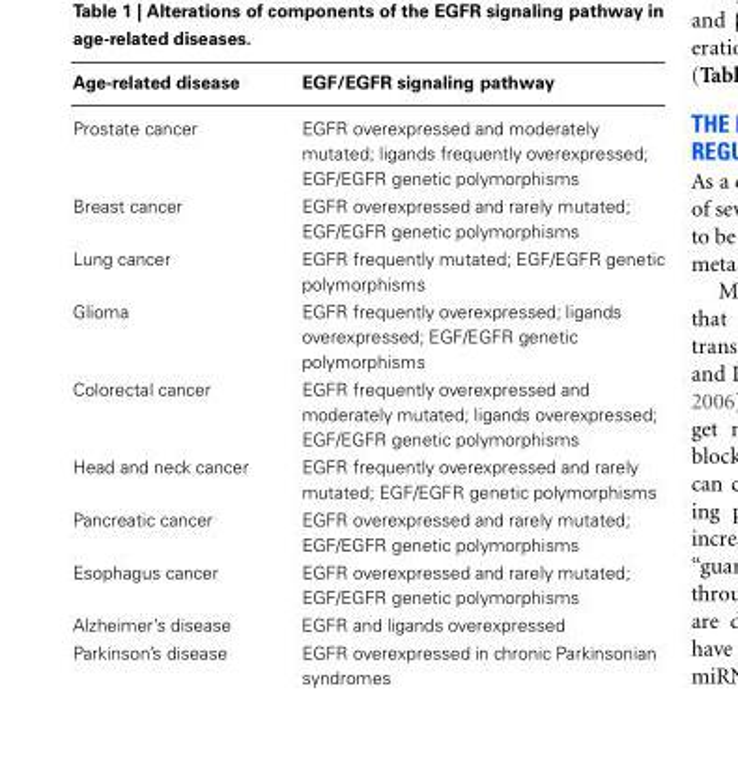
<table><thead><tr><td>Age-related disease</td><td>EGF/EGFR signaling pathway</td></tr></thead><tbody><tr><td>Prostate cancer</td><td>EGFR overexpressed and moderately mutated; ligands frequently overexpressed; EGF/EGFR genetic polymorphisms</td></tr><tr><td>Breast cancer</td><td>EGFR overexpressed and rarely mutated; EGF/EGFR genetic polymorphisms</td></tr><tr><td>Lung cancer</td><td>EGFR frequently mutated; EGF/EGFR genetic polymorphisms</td></tr><tr><td>Glioma</td><td>EGFR frequently overexpressed; ligands overexpressed; EGF/EGFR genetic polymorphisms</td></tr><tr><td>Colorectal cancer</td><td>EGFR frequently overexpressed and moderately mutated; ligands overexpressed; EGF/EGFR genetic polymorphisms</td></tr><tr><td>Head and neck cancer</td><td>EGFR frequently overexpressed and rarely mutated; EGF/EGFR genetic polymorphisms</td></tr><tr><td>Pancreatic cancer</td><td>EGFR overexpressed and rarely mutated; EGF/EGFR genetic polymorphisms</td></tr><tr><td>Esophagus cancer</td><td>EGFR overexpressed and rarely mutated; EGF/EGFR genetic polymorphisms</td></tr><tr><td>Alzheimer’s disease</td><td>EGFR and ligands overexpressed</td></tr><tr><td>Parkinson’s disease</td><td>EGFR overexpressed in chronic Parkinsonian syndromes</td></tr></tbody></table>